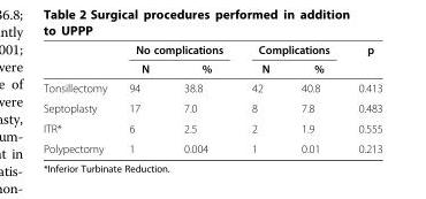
<table><thead><tr><td rowspan="2"></td><td colspan="2">No complications</td><td colspan="2">Complications</td><td rowspan="2">p</td></tr><tr><td>N</td><td>%</td><td>N</td><td>%</td></tr></thead><tbody><tr><td>Tonsillectomy</td><td>94</td><td>38.8</td><td>42</td><td>40.8</td><td>0.413</td></tr><tr><td>Septoplasty</td><td>17</td><td>7.0</td><td>8</td><td>7.8</td><td>0.483</td></tr><tr><td>ITR*</td><td>6</td><td>2.5</td><td>2</td><td>1.9</td><td>0.555</td></tr><tr><td>Polypectomy</td><td>1</td><td>0.004</td><td>1</td><td>0.01</td><td>0.213</td></tr></tbody></table>